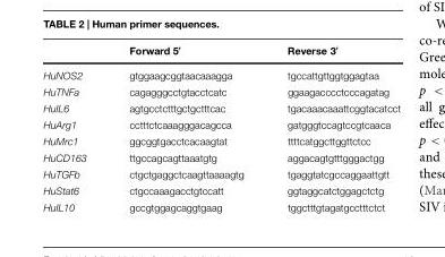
<table><thead><tr><td></td><td>Forward 5′</td><td>Reverse 3′</td></tr></thead><tbody><tr><td>HuNOS2</td><td>gtggaagcggtaacaaagga</td><td>tgccattgttggtggagtaa</td></tr><tr><td>HuTNFa</td><td>cagagggcctgtacctcatc</td><td>ggaagacccctcccagatag</td></tr><tr><td>HuIL6</td><td>agtgcctctttgctgctttcac</td><td>tgacaaacaaattcggtacatcct</td></tr><tr><td>HuArg1</td><td>cctttctcaaagggacagcca</td><td>gatgggtccagtccgtcaaca</td></tr><tr><td>HuMrc1</td><td>ggcggtgacctcacaagtat</td><td>ttttcatggcttggttctcc</td></tr><tr><td>HuCD163</td><td>ttgccagcagttaaatgtg</td><td>aggacagtgtttgggactgg</td></tr><tr><td>HuTGFb</td><td>ctgctgaggctcaagttaaaagtg</td><td>tgaggtatcgccaggaattgtt</td></tr><tr><td>HuStat6</td><td>ctgccaaagacctgtccatt</td><td>ggtaggcatctggagctctg</td></tr><tr><td>HuIL10</td><td>gccgtggagcaggtgaag</td><td>tggctttgtagatgcctttctct</td></tr></tbody></table>